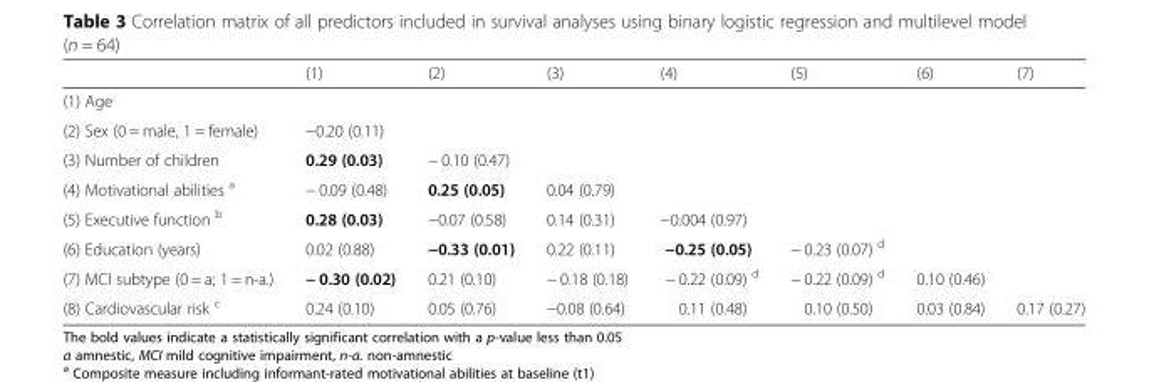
<table><thead><tr><td></td><td>(1)</td><td>(2)</td><td>(3)</td><td>(4)</td><td>(5)</td><td>(6)</td><td>(7)</td></tr></thead><tbody><tr><td colspan="8">(1) Age</td></tr><tr><td>(2) Sex (0 = male, 1 = female)</td><td>−0.20 (0.11)</td><td></td><td></td><td></td><td></td><td></td><td></td></tr><tr><td>(3) Number of children</td><td>0.29 (0.03)</td><td>− 0.10 (0.47)</td><td></td><td></td><td></td><td></td><td></td></tr><tr><td>(4) Motivational abilities <sup>a</sup></td><td>− 0.09 (0.48)</td><td>0.25 (0.05)</td><td>0.04 (0.79)</td><td></td><td></td><td></td><td></td></tr><tr><td>(5) Executive function <sup>b</sup></td><td>0.28 (0.03)</td><td>−0.07 (0.58)</td><td>0.14 (0.31)</td><td>−0.004 (0.97)</td><td></td><td></td><td></td></tr><tr><td>(6) Education (years)</td><td>0.02 (0.88)</td><td>−0.33 (0.01)</td><td>0.22 (0.11)</td><td>−0.25 (0.05)</td><td>− 0.23 (0.07) <sup>d</sup></td><td></td><td></td></tr><tr><td>(7) MCI subtype (0 = a; 1 = n-a.)</td><td>− 0.30 (0.02)</td><td>0.21 (0.10)</td><td>− 0.18 (0.18)</td><td>− 0.22 (0.09) <sup>d</sup></td><td>− 0.22 (0.09) <sup>d</sup></td><td>0.10 (0.46)</td><td></td></tr><tr><td>(8) Cardiovascular risk <sup>c</sup></td><td>0.24 (0.10)</td><td>0.05 (0.76)</td><td>−0.08 (0.64)</td><td>0.11 (0.48)</td><td>0.10 (0.50)</td><td>0.03 (0.84)</td><td>0.17 (0.27)</td></tr></tbody></table>